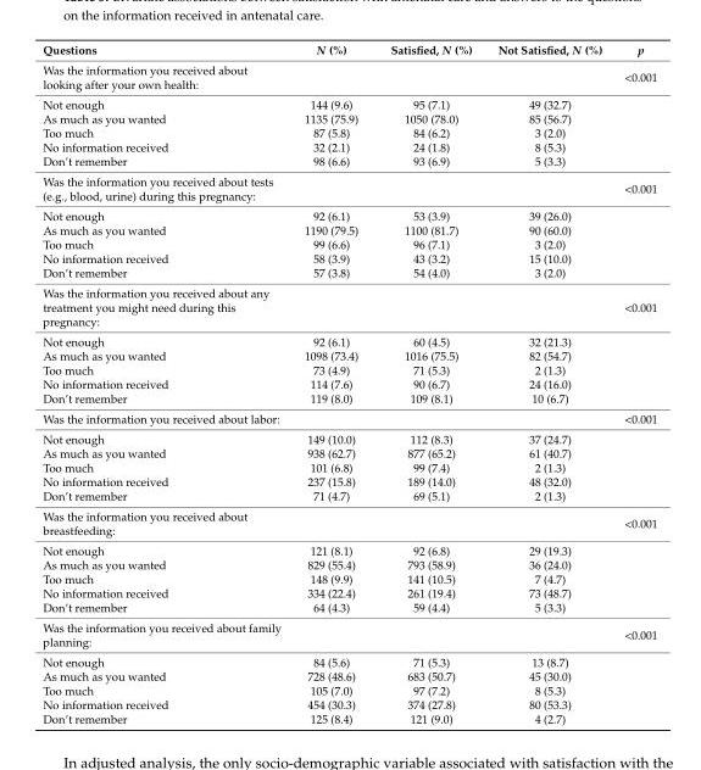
<table><thead><tr><td>Questions</td><td>N (%)</td><td>Satisfied, N (%)</td><td>Not Satisfied, N (%)</td><td>p</td></tr></thead><tbody><tr><td>Was the information you received about looking after your own health:</td><td></td><td></td><td></td><td>&lt;0.001</td></tr><tr><td>Not enough</td><td>144 (9.6)</td><td>95 (7.1)</td><td>49 (32.7)</td><td></td></tr><tr><td>As much as you wanted</td><td>1135 (75.9)</td><td>1050 (78.0)</td><td>85 (56.7)</td><td></td></tr><tr><td>Too much</td><td>87 (5.8)</td><td>84 (6.2)</td><td>3 (2.0)</td><td></td></tr><tr><td>No information received</td><td>32 (2.1)</td><td>24 (1.8)</td><td>8 (5.3)</td><td></td></tr><tr><td>Don’t remember</td><td>98 (6.6)</td><td>93 (6.9)</td><td>5 (3.3)</td><td></td></tr><tr><td>Was the information you received about tests (e.g., blood, urine) during this pregnancy:</td><td></td><td></td><td></td><td>&lt;0.001</td></tr><tr><td>Not enough</td><td>92 (6.1)</td><td>53 (3.9)</td><td>39 (26.0)</td><td></td></tr><tr><td>As much as you wanted</td><td>1190 (79.5)</td><td>1100 (81.7)</td><td>90 (60.0)</td><td></td></tr><tr><td>Too much</td><td>99 (6.6)</td><td>96 (7.1)</td><td>3 (2.0)</td><td></td></tr><tr><td>No information received</td><td>58 (3.9)</td><td>43 (3.2)</td><td>15 (10.0)</td><td></td></tr><tr><td>Don’t remember</td><td>57 (3.8)</td><td>54 (4.0)</td><td>3 (2.0)</td><td></td></tr><tr><td>Was the information you received about any treatment you might need during this pregnancy:</td><td></td><td></td><td></td><td>&lt;0.001</td></tr><tr><td>Not enough</td><td>92 (6.1)</td><td>60 (4.5)</td><td>32 (21.3)</td><td></td></tr><tr><td>As much as you wanted</td><td>1098 (73.4)</td><td>1016 (75.5)</td><td>82 (54.7)</td><td></td></tr><tr><td>Too much</td><td>73 (4.9)</td><td>71 (5.3)</td><td>2 (1.3)</td><td></td></tr><tr><td>No information received</td><td>114 (7.6)</td><td>90 (6.7)</td><td>24 (16.0)</td><td></td></tr><tr><td>Don’t remember</td><td>119 (8.0)</td><td>109 (8.1)</td><td>10 (6.7)</td><td></td></tr><tr><td>Was the information you received about labor:</td><td></td><td></td><td></td><td>&lt;0.001</td></tr><tr><td>Not enough</td><td>149 (10.0)</td><td>112 (8.3)</td><td>37 (24.7)</td><td></td></tr><tr><td>As much as you wanted</td><td>938 (62.7)</td><td>877 (65.2)</td><td>61 (40.7)</td><td></td></tr><tr><td>Too much</td><td>101 (6.8)</td><td>99 (7.4)</td><td>2 (1.3)</td><td></td></tr><tr><td>No information received</td><td>237 (15.8)</td><td>189 (14.0)</td><td>48 (32.0)</td><td></td></tr><tr><td>Don’t remember</td><td>71 (4.7)</td><td>69 (5.1)</td><td>2 (1.3)</td><td></td></tr><tr><td>Was the information you received about breastfeeding:</td><td></td><td></td><td></td><td>&lt;0.001</td></tr><tr><td>Not enough</td><td>121 (8.1)</td><td>92 (6.8)</td><td>29 (19.3)</td><td></td></tr><tr><td>As much as you wanted</td><td>829 (55.4)</td><td>793 (58.9)</td><td>36 (24.0)</td><td></td></tr><tr><td>Too much</td><td>148 (9.9)</td><td>141 (10.5)</td><td>7 (4.7)</td><td></td></tr><tr><td>No information received</td><td>334 (22.4)</td><td>261 (19.4)</td><td>73 (48.7)</td><td></td></tr><tr><td>Don’t remember</td><td>64 (4.3)</td><td>59 (4.4)</td><td>5 (3.3)</td><td></td></tr><tr><td>Was the information you received about family planning:</td><td></td><td></td><td></td><td>&lt;0.001</td></tr><tr><td>Not enough</td><td>84 (5.6)</td><td>71 (5.3)</td><td>13 (8.7)</td><td></td></tr><tr><td>As much as you wanted</td><td>728 (48.6)</td><td>683 (50.7)</td><td>45 (30.0)</td><td></td></tr><tr><td>Too much</td><td>105 (7.0)</td><td>97 (7.2)</td><td>8 (5.3)</td><td></td></tr><tr><td>No information received</td><td>454 (30.3)</td><td>374 (27.8)</td><td>80 (53.3)</td><td></td></tr><tr><td>Don’t remember</td><td>125 (8.4)</td><td>121 (9.0)</td><td>4 (2.7)</td><td></td></tr></tbody></table>